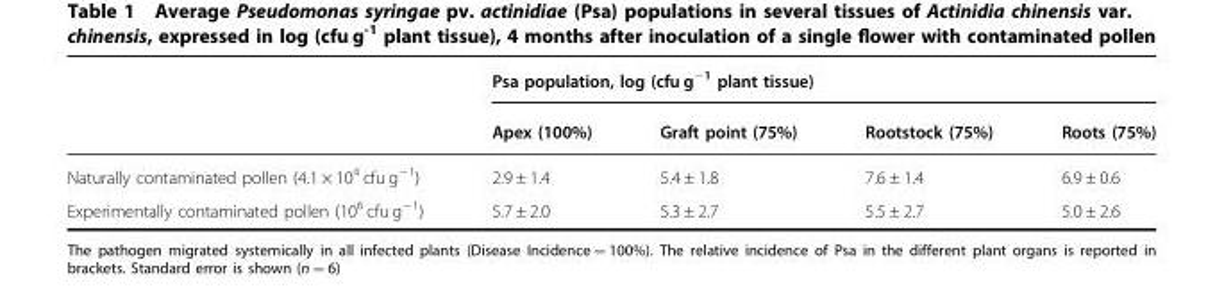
<table><thead><tr><td rowspan="2"></td><td colspan="4">Psa population, log (cfu g<sup>−1</sup> plant tissue)</td></tr><tr><td>Apex (100%)</td><td>Graft point (75%)</td><td>Rootstock (75%)</td><td>Roots (75%)</td></tr></thead><tbody><tr><td>Naturally contaminated pollen (4.1 × 10<sup>4</sup> cfu g<sup>−1</sup>)</td><td>2.9 ± 1.4</td><td>5.4 ± 1.8</td><td>7.6 ± 1.4</td><td>6.9 ± 0.6</td></tr><tr><td>Experimentally contaminated pollen (10<sup>6</sup> cfu g<sup>−1</sup>)</td><td>5.7 ± 2.0</td><td>5.3 ± 2.7</td><td>5.5 ± 2.7</td><td>5.0 ± 2.6</td></tr></tbody></table>